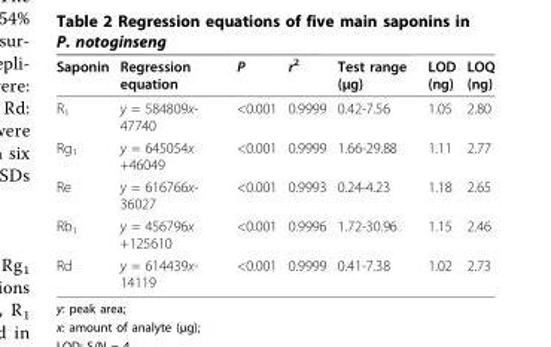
<table><thead><tr><td>Saponin</td><td>Regression equation</td><td>P</td><td>r<sup>2</sup></td><td>Test range (μg)</td><td>LOD (ng)</td><td>LOQ (ng)</td></tr></thead><tbody><tr><td>R<sub>1</sub></td><td>y = 584809x- 47740</td><td>&lt;0.001</td><td>0.9999</td><td>0.42-7.56</td><td>1.05</td><td>2.80</td></tr><tr><td>Rg<sub>1</sub></td><td>y = 645054x +46049</td><td>&lt;0.001</td><td>0.9999</td><td>1.66-29.88</td><td>1.11</td><td>2.77</td></tr><tr><td>Re</td><td>y = 616766x- 36027</td><td>&lt;0.001</td><td>0.9993</td><td>0.24-4.23</td><td>1.18</td><td>2.65</td></tr><tr><td>Rb<sub>1</sub></td><td>y = 456796x +125610</td><td>&lt;0.001</td><td>0.9996</td><td>1.72-30.96</td><td>1.15</td><td>2.46</td></tr><tr><td>Rd</td><td>y = 614439x- 14119</td><td>&lt;0.001</td><td>0.9999</td><td>0.41-7.38</td><td>1.02</td><td>2.73</td></tr></tbody></table>